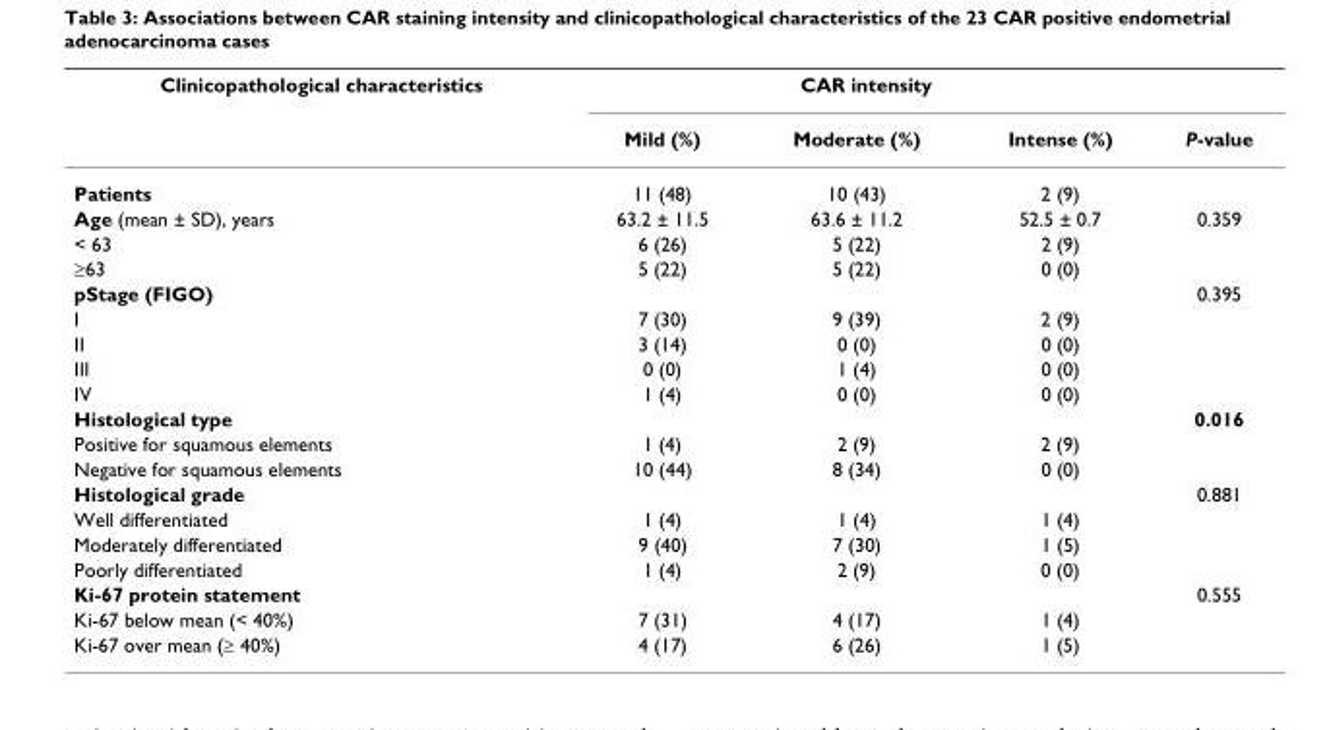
<table><thead><tr><td rowspan="2">Clinicopathological characteristics</td><td colspan="3">CAR intensity</td><td rowspan="2">P-value</td></tr><tr><td>Mild (%)</td><td>Moderate (%)</td><td>Intense (%)</td></tr></thead><tbody><tr><td>Patients</td><td>11 (48)</td><td>10 (43)</td><td>2 (9)</td><td></td></tr><tr><td>Age (mean ± SD), years</td><td>63.2 ± 11.5</td><td>63.6 ± 11.2</td><td>52.5 ± 0.7</td><td>0.359</td></tr><tr><td>&lt; 63</td><td>6 (26)</td><td>5 (22)</td><td>2 (9)</td><td></td></tr><tr><td>≥63</td><td>5 (22)</td><td>5 (22)</td><td>0 (0)</td><td></td></tr><tr><td>pStage (FIGO)</td><td></td><td></td><td></td><td>0.395</td></tr><tr><td>I</td><td>7 (30)</td><td>9 (39)</td><td>2 (9)</td><td></td></tr><tr><td>II</td><td>3 (14)</td><td>0 (0)</td><td>0 (0)</td><td></td></tr><tr><td>III</td><td>0 (0)</td><td>1 (4)</td><td>0 (0)</td><td></td></tr><tr><td>IV</td><td>1 (4)</td><td>0 (0)</td><td>0 (0)</td><td></td></tr><tr><td>Histological type</td><td></td><td></td><td></td><td>0.016</td></tr><tr><td>Positive for squamous elements</td><td>1 (4)</td><td>2 (9)</td><td>2 (9)</td><td></td></tr><tr><td>Negative for squamous elements</td><td>10 (44)</td><td>8 (34)</td><td>0 (0)</td><td></td></tr><tr><td>Histological grade</td><td></td><td></td><td></td><td>0.881</td></tr><tr><td>Well differentiated</td><td>1 (4)</td><td>1 (4)</td><td>1 (4)</td><td></td></tr><tr><td>Moderately differentiated</td><td>9 (40)</td><td>7 (30)</td><td>1 (5)</td><td></td></tr><tr><td>Poorly differentiated</td><td>1 (4)</td><td>2 (9)</td><td>0 (0)</td><td></td></tr><tr><td>Ki-67 protein statement</td><td></td><td></td><td></td><td>0.555</td></tr><tr><td>Ki-67 below mean (&lt; 40%)</td><td>7 (31)</td><td>4 (17)</td><td>1 (4)</td><td></td></tr><tr><td>Ki-67 over mean (≥ 40%)</td><td>4 (17)</td><td>6 (26)</td><td>1 (5)</td><td></td></tr></tbody></table>